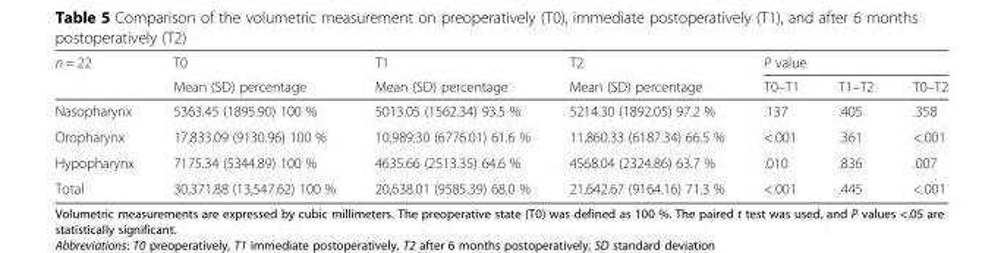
<table><thead><tr><td rowspan="2">n = 22</td><td rowspan="2">T0 Mean (SD) percentage</td><td rowspan="2">T1 Mean (SD) percentage</td><td rowspan="2">T2 Mean (SD) percentage</td><td colspan="3">P value</td></tr><tr><td>T0–T1</td><td>T1–T2</td><td>T0–T2</td></tr></thead><tbody><tr><td>Nasopharynx</td><td>5363.45 (1895.90) 100 %</td><td>5013.05 (1562.34) 93.5 %</td><td>5214.30 (1892.05) 97.2 %</td><td>.137</td><td>.405</td><td>.358</td></tr><tr><td>Oropharynx</td><td>17,833.09 (9130.96) 100 %</td><td>10,989.30 (6776.01) 61.6 %</td><td>11,860.33 (6187.34) 66.5 %</td><td>&lt;.001</td><td>.361</td><td>&lt;.001</td></tr><tr><td>Hypopharynx</td><td>7175.34 (5344.89) 100 %</td><td>4635.66 (2513.35) 64.6 %</td><td>4568.04 (2324.86) 63.7 %</td><td>.010</td><td>.836</td><td>.007</td></tr><tr><td>Total</td><td>30,371.88 (13,547.62) 100 %</td><td>20,638.01 (9585.39) 68.0 %</td><td>21,642.67 (9164.16) 71.3 %</td><td>&lt;.001</td><td>.445</td><td>&lt;.001</td></tr></tbody></table>